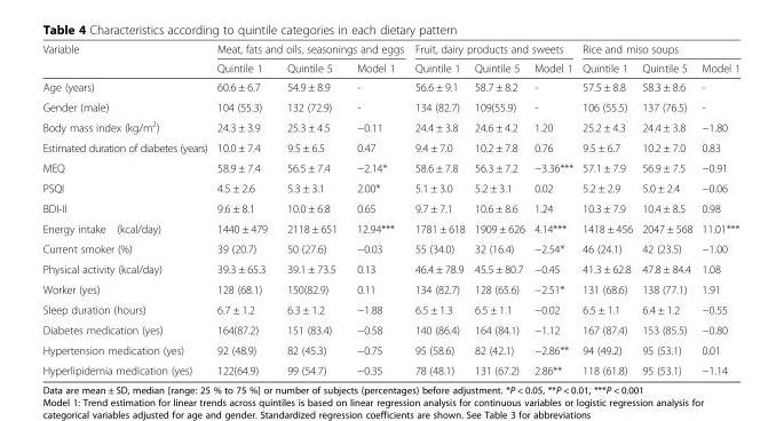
<table><thead><tr><td rowspan="2">Variable</td><td colspan="3">Meat, fats and oils, seasonings and eggs</td><td colspan="3">Fruit, dairy products and sweets</td><td colspan="3">Rice and miso soups</td></tr><tr><td>Quintile 1</td><td>Quintile 5</td><td>Model 1</td><td>Quintile 1</td><td>Quintile 5</td><td>Model 1</td><td>Quintile 1</td><td>Quintile 5</td><td>Model 1</td></tr></thead><tbody><tr><td>Age (years)</td><td>60.6 ± 6.7</td><td>54.9 ± 8.9</td><td>-</td><td>56.6 ± 9.1</td><td>58.7 ± 8.2</td><td>-</td><td>57.5 ± 8.8</td><td>58.3 ± 8.6</td><td>-</td></tr><tr><td>Gender (male)</td><td>104 (55.3)</td><td>132 (72.9)</td><td>-</td><td>134 (82.7)</td><td>109(55.9)</td><td>-</td><td>106 (55.5)</td><td>137 (76.5)</td><td>-</td></tr><tr><td>Body mass index (kg/m<sup>2</sup>)</td><td>24.3 ± 3.9</td><td>25.3 ± 4.5</td><td>−0.11</td><td>24.4 ± 3.8</td><td>24.6 ± 4.2</td><td>1.20</td><td>25.2 ± 4.3</td><td>24.4 ± 3.8</td><td>−1.80</td></tr><tr><td>Estimated duration of diabetes (years)</td><td>10.0 ± 7.4</td><td>9.5 ± 6.5</td><td>0.47</td><td>9.4 ± 7.0</td><td>10.2 ± 7.8</td><td>0.76</td><td>9.5 ± 6.7</td><td>10.2 ± 7.0</td><td>0.83</td></tr><tr><td>MEQ</td><td>58.9 ± 7.4</td><td>56.5 ± 7.4</td><td>−2.14*</td><td>58.6 ± 7.8</td><td>56.3 ± 7.2</td><td>−3.36***</td><td>57.1 ± 7.9</td><td>56.9 ± 7.5</td><td>−0.91</td></tr><tr><td>PSQI</td><td>4.5 ± 2.6</td><td>5.3 ± 3.1</td><td>2.00*</td><td>5.1 ± 3.0</td><td>5.2 ± 3.1</td><td>0.02</td><td>5.2 ± 2.9</td><td>5.0 ± 2.4</td><td>−0.06</td></tr><tr><td>BDI-II</td><td>9.6 ± 8.1</td><td>10.0 ± 6.8</td><td>0.65</td><td>9.7 ± 7.1</td><td>10.6 ± 8.6</td><td>1.24</td><td>10.3 ± 7.9</td><td>10.4 ± 8.5</td><td>0.98</td></tr><tr><td>Energy intake (kcal/day)</td><td>1440 ± 479</td><td>2118 ± 651</td><td>12.94***</td><td>1781 ± 618</td><td>1909 ± 626</td><td>4.14***</td><td>1418 ± 456</td><td>2047 ± 568</td><td>11.01***</td></tr><tr><td>Current smoker (%)</td><td>39 (20.7)</td><td>50 (27.6)</td><td>−0.03</td><td>55 (34.0)</td><td>32 (16.4)</td><td>−2.54*</td><td>46 (24.1)</td><td>42 (23.5)</td><td>−1.00</td></tr><tr><td>Physical activity (kcal/day)</td><td>39.3 ± 65.3</td><td>39.1 ± 73.5</td><td>0.13</td><td>46.4 ± 78.9</td><td>45.5 ± 80.7</td><td>−0.45</td><td>41.3 ± 62.8</td><td>47.8 ± 84.4</td><td>1.08</td></tr><tr><td>Worker (yes)</td><td>128 (68.1)</td><td>150(82.9)</td><td>0.11</td><td>134 (82.7)</td><td>128 (65.6)</td><td>−2.51*</td><td>131 (68.6)</td><td>138 (77.1)</td><td>1.91</td></tr><tr><td>Sleep duration (hours)</td><td>6.7 ± 1.2</td><td>6.3 ± 1.2</td><td>−1.88</td><td>6.5 ± 1.3</td><td>6.5 ± 1.1</td><td>−0.02</td><td>6.5 ± 1.1</td><td>6.4 ± 1.2</td><td>−0.55</td></tr><tr><td>Diabetes medication (yes)</td><td>164(87.2)</td><td>151 (83.4)</td><td>−0.58</td><td>140 (86.4)</td><td>164 (84.1)</td><td>−1.12</td><td>167 (87.4)</td><td>153 (85.5)</td><td>−0.80</td></tr><tr><td>Hypertension medication (yes)</td><td>92 (48.9)</td><td>82 (45.3)</td><td>−0.75</td><td>95 (58.6)</td><td>82 (42.1)</td><td>−2.86**</td><td>94 (49.2)</td><td>95 (53.1)</td><td>0.01</td></tr><tr><td>Hyperlipidemia medication (yes)</td><td>122(64.9)</td><td>99 (54.7)</td><td>−0.35</td><td>78 (48.1)</td><td>131 (67.2)</td><td>2.86**</td><td>118 (61.8)</td><td>95 (53.1)</td><td>−1.14</td></tr></tbody></table>